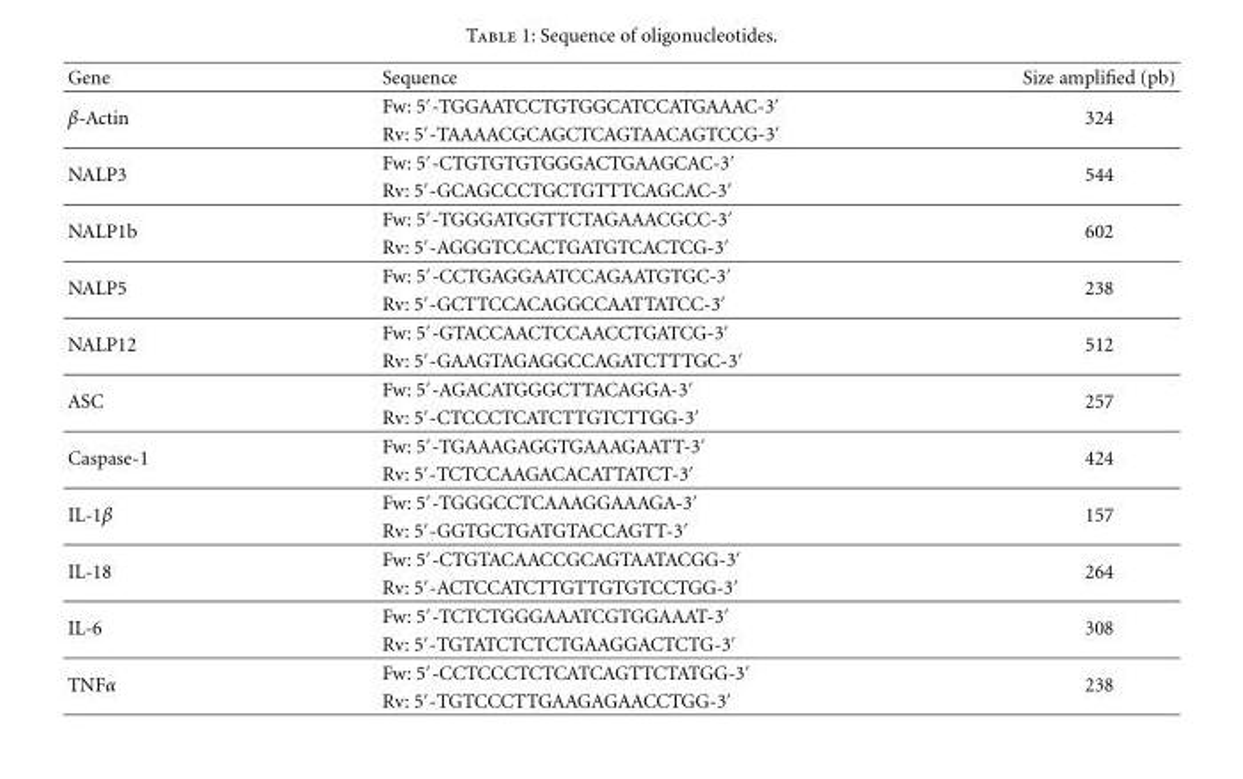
<table><thead><tr><td>Gene</td><td>Sequence</td><td>Size amplified (pb)</td></tr></thead><tbody><tr><td rowspan="2">β-Actin</td><td>Fw: 5′-TGGAATCCTGTGGCATCCATGAAAC-3′</td><td rowspan="2">324</td></tr><tr><td>Rv: 5′-TAAAACGCAGCTCAGTAACAGTCCG-3′</td></tr><tr><td rowspan="2">NALP3</td><td>Fw: 5′-CTGTGTGTGGGACTGAAGCAC-3′</td><td rowspan="2">544</td></tr><tr><td>Rv: 5′-GCAGCCCTGCTGTTTCAGCAC-3′</td></tr><tr><td rowspan="2">NALP1b</td><td>Fw: 5′-TGGGATGGTTCTAGAAACGCC-3′</td><td rowspan="2">602</td></tr><tr><td>Rv: 5′-AGGGTCCACTGATGTCACTCG-3′</td></tr><tr><td rowspan="2">NALP5</td><td>Fw: 5′-CCTGAGGAATCCAGAATGTGC-3′</td><td rowspan="2">238</td></tr><tr><td>Rv: 5′-GCTTCCACAGGCCAATTATCC-3′</td></tr><tr><td rowspan="2">NALP12</td><td>Fw: 5′-GTACCAACTCCAACCTGATCG-3′</td><td rowspan="2">512</td></tr><tr><td>Rv: 5′-GAAGTAGAGGCCAGATCTTTGC-3′</td></tr><tr><td rowspan="2">ASC</td><td>Fw: 5′-AGACATGGGCTTACAGGA-3′</td><td rowspan="2">257</td></tr><tr><td>Rv: 5′-CTCCCTCATCTTGTCTTGG-3′</td></tr><tr><td rowspan="2">Caspase-1</td><td>Fw: 5′-TGAAAGAGGTGAAAGAATT-3′</td><td rowspan="2">424</td></tr><tr><td>Rv: 5′-TCTCCAAGACACATTATCT-3′</td></tr><tr><td rowspan="2">IL-1β</td><td>Fw: 5′-TGGGCCTCAAAGGAAAGA-3′</td><td rowspan="2">157</td></tr><tr><td>Rv: 5′-GGTGCTGATGTACCAGTT-3′</td></tr><tr><td rowspan="2">IL-18</td><td>Fw: 5′-CTGTACAACCGCAGTAATACGG-3′</td><td rowspan="2">264</td></tr><tr><td>Rv: 5′-ACTCCATCTTGTTGTGTCCTGG-3′</td></tr><tr><td rowspan="2">IL-6</td><td>Fw: 5′-TCTCTGGGAAATCGTGGAAAT-3′</td><td rowspan="2">308</td></tr><tr><td>Rv: 5′-TGTATCTCTCTGAAGGACTCTG-3′</td></tr><tr><td rowspan="2">TNFα</td><td>Fw: 5′-CCTCCCTCTCATCAGTTCTATGG-3′</td><td rowspan="2">238</td></tr><tr><td>Rv: 5′-TGTCCCTTGAAGAGAACCTGG-3′</td></tr></tbody></table>